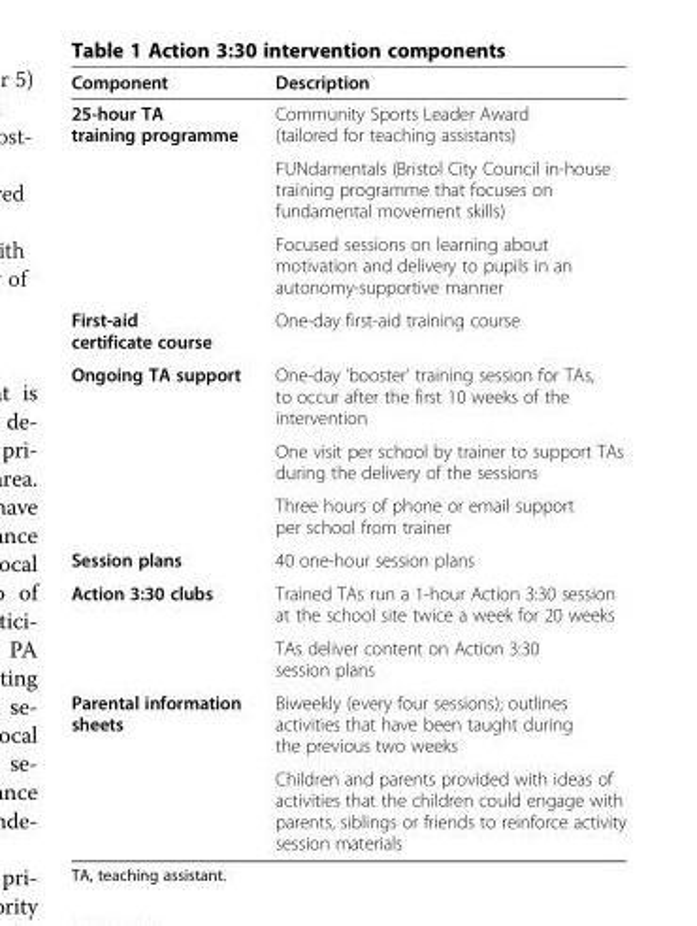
<table><thead><tr><td>Component</td><td>Description</td></tr></thead><tbody><tr><td rowspan="3">25-hour TA training programme</td><td>Community Sports Leader Award (tailored for teaching assistants)</td></tr><tr><td>FUNdamentals (Bristol City Council in-house training programme that focuses on fundamental movement skills)</td></tr><tr><td>Focused sessions on learning about motivation and delivery to pupils in an autonomy-supportive manner</td></tr><tr><td>First-aid certificate course</td><td>One-day first-aid training course</td></tr><tr><td rowspan="3">Ongoing TA support</td><td>One-day ‘booster’ training session for TAs, to occur after the first 10 weeks of the intervention</td></tr><tr><td>One visit per school by trainer to support TAs during the delivery of the sessions</td></tr><tr><td>Three hours of phone or email support per school from trainer</td></tr><tr><td>Session plans</td><td>40 one-hour session plans</td></tr><tr><td rowspan="2">Action 3:30 clubs</td><td>Trained TAs run a 1-hour Action 3:30 session at the school site twice a week for 20 weeks</td></tr><tr><td>TAs deliver content on Action 3:30 session plans</td></tr><tr><td rowspan="2">Parental information sheets</td><td>Biweekly (every four sessions); outlines activities that have been taught during the previous two weeks</td></tr><tr><td>Children and parents provided with ideas of activities that the children could engage with parents, siblings or friends to reinforce activity session materials</td></tr></tbody></table>